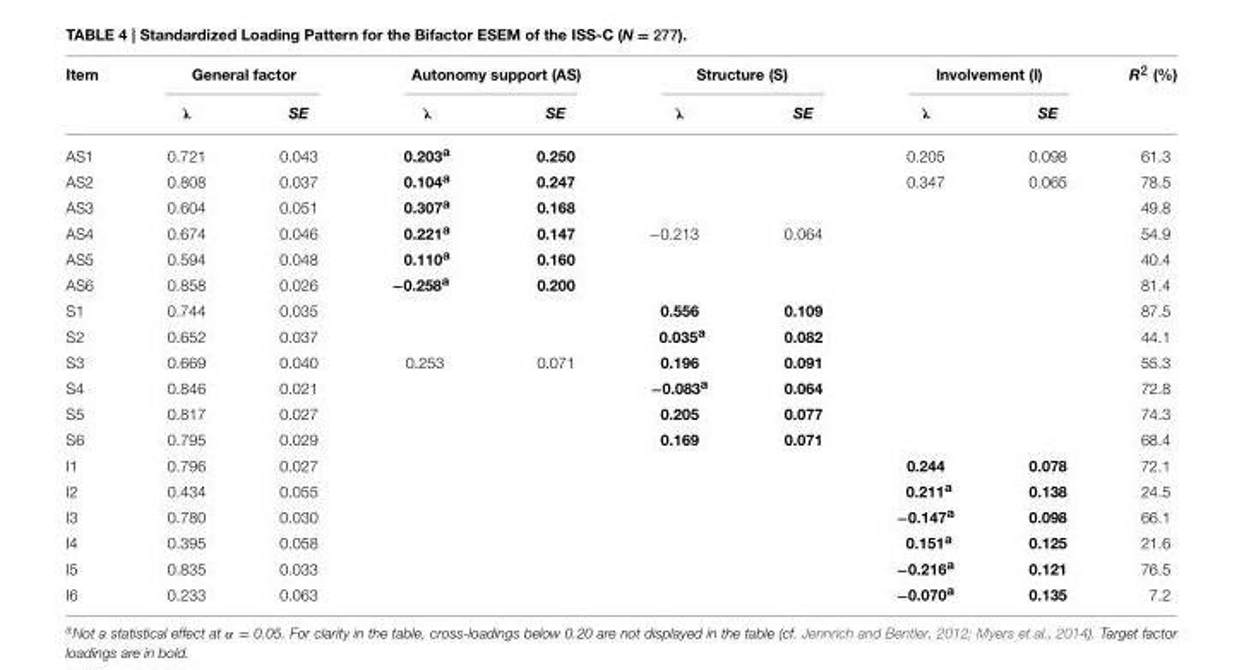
<table><thead><tr><td rowspan="2">Item</td><td colspan="2">General factor</td><td colspan="2">Autonomy support (AS)</td><td colspan="2">Structure (S)</td><td colspan="2">Involvement (I)</td><td rowspan="2">R<sup>2</sup> (%)</td></tr><tr><td>λ</td><td>SE</td><td>λ</td><td>SE</td><td>λ</td><td>SE</td><td>λ</td><td>SE</td></tr></thead><tbody><tr><td>AS1</td><td>0.721</td><td>0.043</td><td>0.203<sup>a</sup></td><td>0.250</td><td></td><td></td><td>0.205</td><td>0.098</td><td>61.3</td></tr><tr><td>AS2</td><td>0.808</td><td>0.037</td><td>0.104<sup>a</sup></td><td>0.247</td><td></td><td></td><td>0.347</td><td>0.065</td><td>78.5</td></tr><tr><td>AS3</td><td>0.604</td><td>0.051</td><td>0.307<sup>a</sup></td><td>0.168</td><td></td><td></td><td></td><td></td><td>49.8</td></tr><tr><td>AS4</td><td>0.674</td><td>0.046</td><td>0.221<sup>a</sup></td><td>0.147</td><td>−0.213</td><td>0.064</td><td></td><td></td><td>54.9</td></tr><tr><td>AS5</td><td>0.594</td><td>0.048</td><td>0.110<sup>a</sup></td><td>0.160</td><td></td><td></td><td></td><td></td><td>40.4</td></tr><tr><td>AS6</td><td>0.858</td><td>0.026</td><td>−0.258<sup>a</sup></td><td>0.200</td><td></td><td></td><td></td><td></td><td>81.4</td></tr><tr><td>S1</td><td>0.744</td><td>0.035</td><td></td><td></td><td>0.556</td><td>0.109</td><td></td><td></td><td>87.5</td></tr><tr><td>S2</td><td>0.652</td><td>0.037</td><td></td><td></td><td>0.035<sup>a</sup></td><td>0.082</td><td></td><td></td><td>44.1</td></tr><tr><td>S3</td><td>0.669</td><td>0.040</td><td>0.253</td><td>0.071</td><td>0.196</td><td>0.091</td><td></td><td></td><td>55.3</td></tr><tr><td>S4</td><td>0.846</td><td>0.021</td><td></td><td></td><td>−0.083<sup>a</sup></td><td>0.064</td><td></td><td></td><td>72.8</td></tr><tr><td>S5</td><td>0.817</td><td>0.027</td><td></td><td></td><td>0.205</td><td>0.077</td><td></td><td></td><td>74.3</td></tr><tr><td>S6</td><td>0.795</td><td>0.029</td><td></td><td></td><td>0.169</td><td>0.071</td><td></td><td></td><td>68.4</td></tr><tr><td>I1</td><td>0.796</td><td>0.027</td><td></td><td></td><td></td><td></td><td>0.244</td><td>0.078</td><td>72.1</td></tr><tr><td>I2</td><td>0.434</td><td>0.055</td><td></td><td></td><td></td><td></td><td>0.211<sup>a</sup></td><td>0.138</td><td>24.5</td></tr><tr><td>I3</td><td>0.780</td><td>0.030</td><td></td><td></td><td></td><td></td><td>−0.147<sup>a</sup></td><td>0.098</td><td>66.1</td></tr><tr><td>I4</td><td>0.395</td><td>0.058</td><td></td><td></td><td></td><td></td><td>0.151<sup>a</sup></td><td>0.125</td><td>21.6</td></tr><tr><td>I5</td><td>0.835</td><td>0.033</td><td></td><td></td><td></td><td></td><td>−0.216<sup>a</sup></td><td>0.121</td><td>76.5</td></tr><tr><td>I6</td><td>0.233</td><td>0.063</td><td></td><td></td><td></td><td></td><td>−0.070<sup>a</sup></td><td>0.135</td><td>7.2</td></tr></tbody></table>